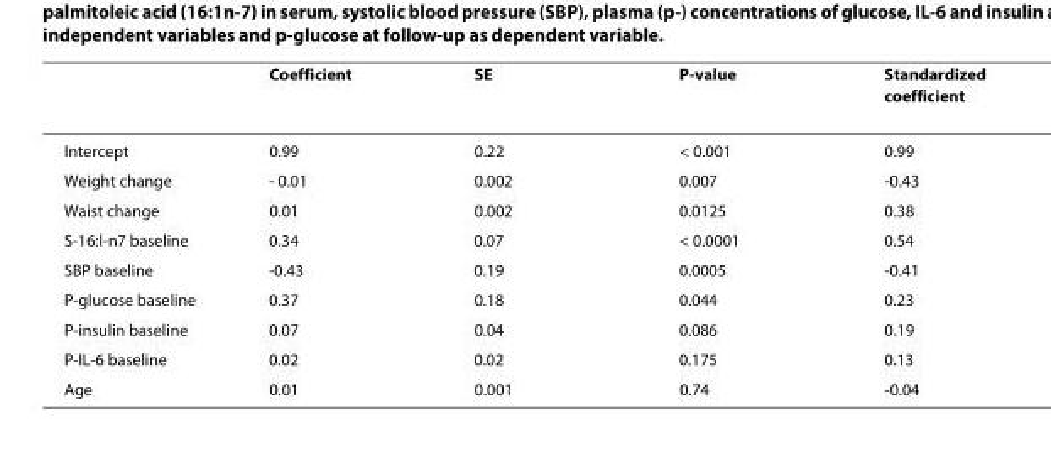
<table><thead><tr><td></td><td>Coefficient</td><td>SE</td><td>P-value</td><td>Standardized coefficient</td></tr></thead><tbody><tr><td>Intercept</td><td>0.99</td><td>0.22</td><td>&lt; 0.001</td><td>0.99</td></tr><tr><td>Weight change</td><td>- 0.01</td><td>0.002</td><td>0.007</td><td>-0.43</td></tr><tr><td>Waist change</td><td>0.01</td><td>0.002</td><td>0.0125</td><td>0.38</td></tr><tr><td>S-16:l-n7 baseline</td><td>0.34</td><td>0.07</td><td>&lt; 0.0001</td><td>0.54</td></tr><tr><td>SBP baseline</td><td>-0.43</td><td>0.19</td><td>0.0005</td><td>-0.41</td></tr><tr><td>P-glucose baseline</td><td>0.37</td><td>0.18</td><td>0.044</td><td>0.23</td></tr><tr><td>P-insulin baseline</td><td>0.07</td><td>0.04</td><td>0.086</td><td>0.19</td></tr><tr><td>P-IL-6 baseline</td><td>0.02</td><td>0.02</td><td>0.175</td><td>0.13</td></tr><tr><td>Age</td><td>0.01</td><td>0.001</td><td>0.74</td><td>-0.04</td></tr></tbody></table>